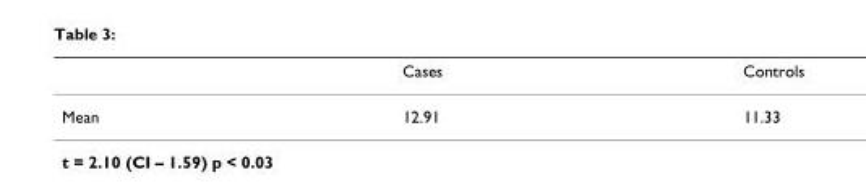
<table><thead><tr><td></td><td>Cases</td><td>Controls</td></tr></thead><tbody><tr><td>Mean</td><td>12.91</td><td>11.33</td></tr></tbody></table>